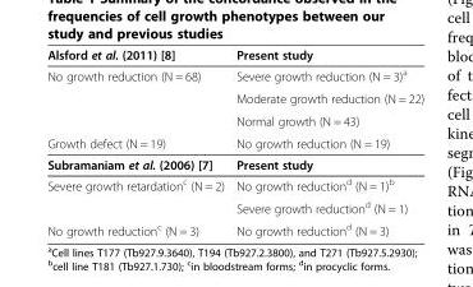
<table><thead><tr><td>Alsford et al. (2011) [8]</td><td>Present study</td></tr></thead><tbody><tr><td rowspan="3">No growth reduction (N = 68)</td><td>Severe growth reduction (N = 3)<sup>a</sup></td></tr><tr><td>Moderate growth reduction (N = 22)</td></tr><tr><td>Normal growth (N = 43)</td></tr><tr><td>Growth defect (N = 19)</td><td>No growth reduction (N = 19)</td></tr><tr><td>Subramaniam et al. (2006) [7]</td><td>Present study</td></tr><tr><td rowspan="2">Severe growth retardation<sup>c</sup> (N = 2)</td><td>No growth reduction<sup>d</sup> (N = 1)<sup>b</sup></td></tr><tr><td>Severe growth reduction<sup>d</sup> (N = 1)</td></tr><tr><td>No growth reduction<sup>c</sup> (N = 3)</td><td>No growth reduction<sup>d</sup> (N = 3)</td></tr></tbody></table>